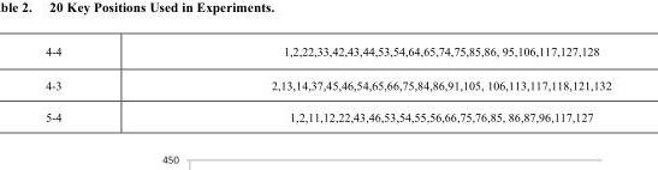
<table><tbody><tr><td>4-4</td><td>1,2,22,33,42,43,44,53,54,64,65,74,75,85,86, 95,106,117,127,128</td></tr><tr><td>4-3</td><td>2,13,14,37,45,46,54,65,66,75,84,86,91,105, 106,113,117,118,121,132</td></tr><tr><td>5-4</td><td>1,2,11,12,22,43,46,53,54,55,56,66,75,76,85, 86,87,96,117,127</td></tr></tbody></table>